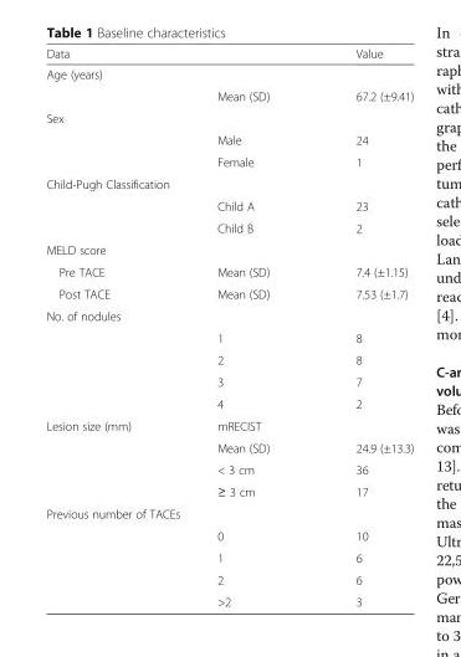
<table><thead><tr><td>Data</td><td></td><td>Value</td></tr></thead><tbody><tr><td colspan="3">Age (years)</td></tr><tr><td></td><td>Mean (SD)</td><td>67.2 (±9.41)</td></tr><tr><td colspan="3">Sex</td></tr><tr><td></td><td>Male</td><td>24</td></tr><tr><td></td><td>Female</td><td>1</td></tr><tr><td colspan="3">Child-Pugh Classification</td></tr><tr><td></td><td>Child A</td><td>23</td></tr><tr><td></td><td>Child B</td><td>2</td></tr><tr><td colspan="3">MELD score</td></tr><tr><td>Pre TACE</td><td>Mean (SD)</td><td>7.4 (±1.15)</td></tr><tr><td>Post TACE</td><td>Mean (SD)</td><td>7.53 (±1.7)</td></tr><tr><td colspan="3">No. of nodules</td></tr><tr><td></td><td>1</td><td>8</td></tr><tr><td></td><td>2</td><td>8</td></tr><tr><td></td><td>3</td><td>7</td></tr><tr><td></td><td>4</td><td>2</td></tr><tr><td rowspan="4">Lesion size (mm)</td><td>mRECIST</td><td></td></tr><tr><td>Mean (SD)</td><td>24.9 (±13.3)</td></tr><tr><td>&lt; 3 cm</td><td>36</td></tr><tr><td>≥ 3 cm</td><td>17</td></tr><tr><td colspan="3">Previous number of TACEs</td></tr><tr><td></td><td>0</td><td>10</td></tr><tr><td></td><td>1</td><td>6</td></tr><tr><td></td><td>2</td><td>6</td></tr><tr><td></td><td>&gt;2</td><td>3</td></tr></tbody></table>